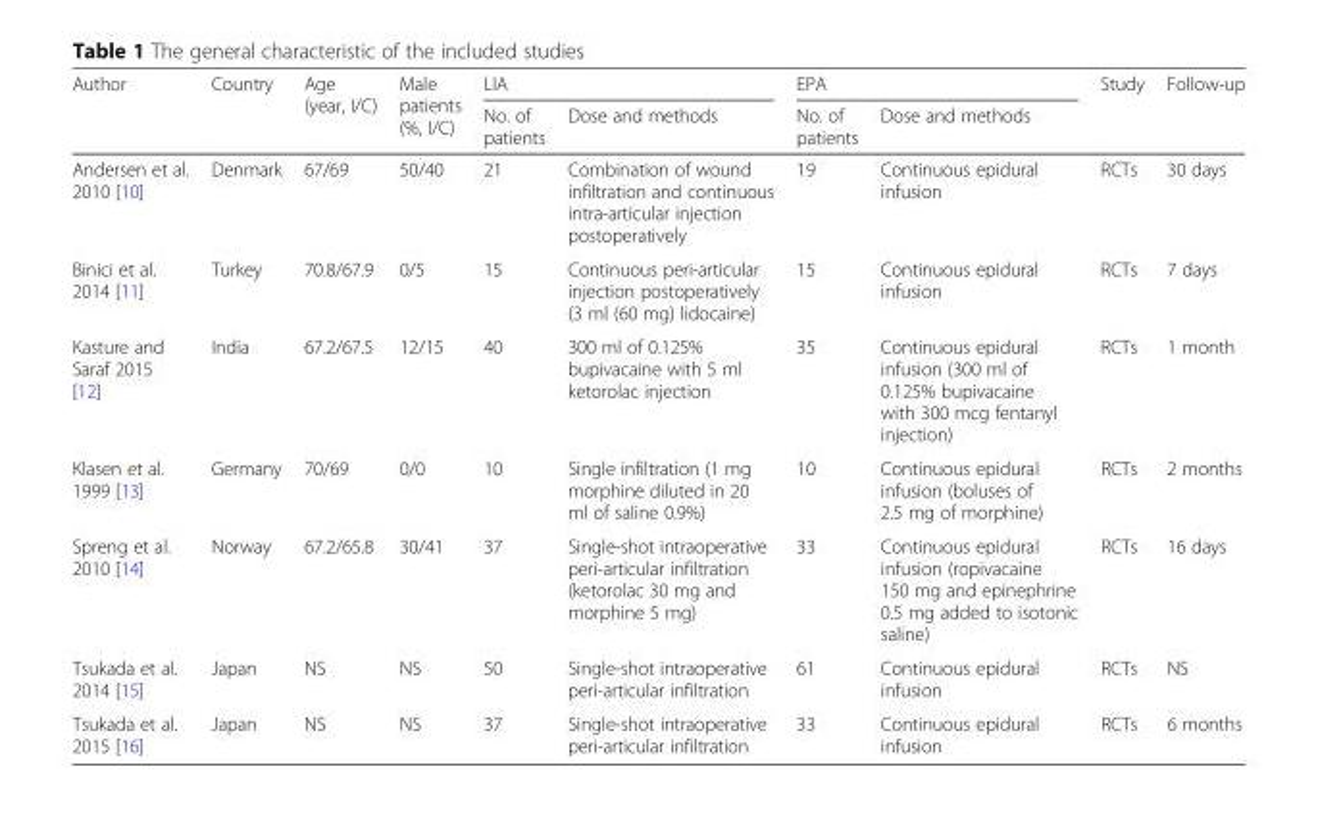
<table><thead><tr><td rowspan="2">Author</td><td rowspan="2">Country</td><td rowspan="2">Age (year, I/C)</td><td rowspan="2">Male patients (%, I/C)</td><td colspan="2">LIA</td><td colspan="2">EPA</td><td rowspan="2">Study</td><td rowspan="2">Follow-up</td></tr><tr><td>No. of patients</td><td>Dose and methods</td><td>No. of patients</td><td>Dose and methods</td></tr></thead><tbody><tr><td>Andersen et al. 2010 [10]</td><td>Denmark</td><td>67/69</td><td>50/40</td><td>21</td><td>Combination of wound infiltration and continuous intra-articular injection postoperatively</td><td>19</td><td>Continuous epidural infusion</td><td>RCTs</td><td>30 days</td></tr><tr><td>Binici et al. 2014 [11]</td><td>Turkey</td><td>70.8/67.9</td><td>0/5</td><td>15</td><td>Continuous peri-articular injection postoperatively (3 ml (60 mg) lidocaine)</td><td>15</td><td>Continuous epidural infusion</td><td>RCTs</td><td>7 days</td></tr><tr><td>Kasture and Saraf 2015 [12]</td><td>India</td><td>67.2/67.5</td><td>12/15</td><td>40</td><td>300 ml of 0.125% bupivacaine with 5 ml ketorolac injection</td><td>35</td><td>Continuous epidural infusion (300 ml of 0.125% bupivacaine with 300 mcg fentanyl injection)</td><td>RCTs</td><td>1 month</td></tr><tr><td>Klasen et al. 1999 [13]</td><td>Germany</td><td>70/69</td><td>0/0</td><td>10</td><td>Single infiltration (1 mg morphine diluted in 20 ml of saline 0.9%)</td><td>10</td><td>Continuous epidural infusion (boluses of 2.5 mg of morphine)</td><td>RCTs</td><td>2 months</td></tr><tr><td>Spreng et al. 2010 [14]</td><td>Norway</td><td>67.2/65.8</td><td>30/41</td><td>37</td><td>Single-shot intraoperative peri-articular infiltration (ketorolac 30 mg and morphine 5 mg)</td><td>33</td><td>Continuous epidural infusion (ropivacaine 150 mg and epinephrine 0.5 mg added to isotonic saline)</td><td>RCTs</td><td>16 days</td></tr><tr><td>Tsukada et al. 2014 [15]</td><td>Japan</td><td>NS</td><td>NS</td><td>50</td><td>Single-shot intraoperative peri-articular infiltration</td><td>61</td><td>Continuous epidural infusion</td><td>RCTs</td><td>NS</td></tr><tr><td>Tsukada et al. 2015 [16]</td><td>Japan</td><td>NS</td><td>NS</td><td>37</td><td>Single-shot intraoperative peri-articular infiltration</td><td>33</td><td>Continuous epidural infusion</td><td>RCTs</td><td>6 months</td></tr></tbody></table>